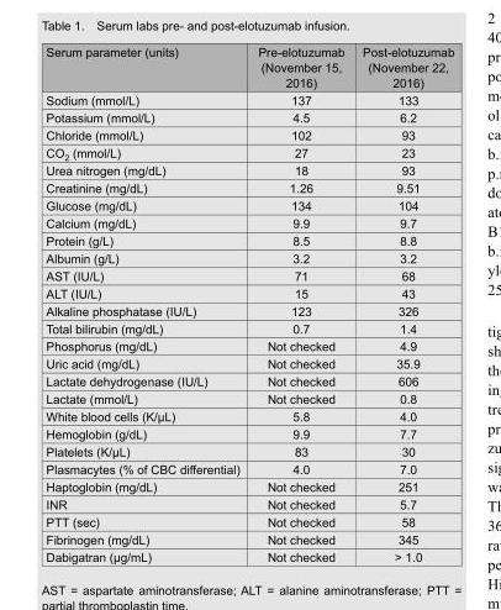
<table><thead><tr><td>Serum parameter (units)</td><td>Pre-elotuzumab (November 15, 2016)</td><td>Post-elotuzumab (November 22, 2016)</td></tr></thead><tbody><tr><td>Sodium (mmol/L)</td><td>137</td><td>133</td></tr><tr><td>Potassium (mmol/L)</td><td>4.5</td><td>6.2</td></tr><tr><td>Chloride (mmol/L)</td><td>102</td><td>93</td></tr><tr><td>CO<sub>2</sub> (mmol/L)</td><td>27</td><td>23</td></tr><tr><td>Urea nitrogen (mg/dL)</td><td>18</td><td>93</td></tr><tr><td>Creatinine (mg/dL)</td><td>1.26</td><td>9.51</td></tr><tr><td>Glucose (mg/dL)</td><td>134</td><td>104</td></tr><tr><td>Calcium (mg/dL)</td><td>9.9</td><td>9.7</td></tr><tr><td>Protein (g/L)</td><td>8.5</td><td>8.8</td></tr><tr><td>Albumin (g/L)</td><td>3.2</td><td>3.2</td></tr><tr><td>AST (IU/L)</td><td>71</td><td>68</td></tr><tr><td>ALT (IU/L)</td><td>15</td><td>43</td></tr><tr><td>Alkaline phosphatase (IU/L)</td><td>123</td><td>326</td></tr><tr><td>Total bilirubin (mg/dL)</td><td>0.7</td><td>1.4</td></tr><tr><td>Phosphorus (mg/dL)</td><td>Not checked</td><td>4.9</td></tr><tr><td>Uric acid (mg/dL)</td><td>Not checked</td><td>35.9</td></tr><tr><td>Lactate dehydrogenase (IU/L)</td><td>Not checked</td><td>606</td></tr><tr><td>Lactate (mmol/L)</td><td>Not checked</td><td>0.8</td></tr><tr><td>White blood cells (K/µL)</td><td>5.8</td><td>4.0</td></tr><tr><td>Hemoglobin (g/dL)</td><td>9.9</td><td>7.7</td></tr><tr><td>Platelets (K/µL)</td><td>83</td><td>30</td></tr><tr><td>Plasmacytes (% of CBC differential)</td><td>4.0</td><td>7.0</td></tr><tr><td>Haptoglobin (mg/dL)</td><td>Not checked</td><td>251</td></tr><tr><td>INR</td><td>Not checked</td><td>5.7</td></tr><tr><td>PTT (sec)</td><td>Not checked</td><td>58</td></tr><tr><td>Fibrinogen (mg/dL)</td><td>Not checked</td><td>345</td></tr><tr><td>Dabigatran (µg/mL)</td><td>Not checked</td><td>&gt; 1.0</td></tr></tbody></table>